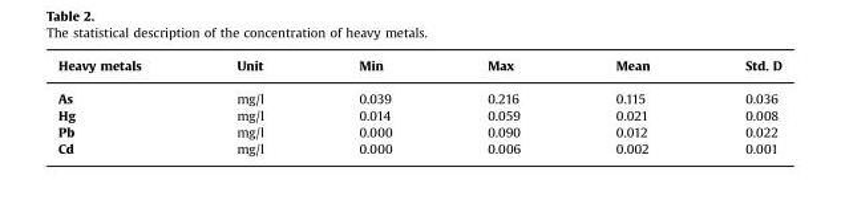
<table><thead><tr><td>Heavy metals</td><td>Unit</td><td>Min</td><td>Max</td><td>Mean</td><td>Std. D</td></tr></thead><tbody><tr><td>As</td><td>mg/l</td><td>0.039</td><td>0.216</td><td>0.115</td><td>0.036</td></tr><tr><td>Hg</td><td>mg/l</td><td>0.014</td><td>0.059</td><td>0.021</td><td>0.008</td></tr><tr><td>Pb</td><td>mg/l</td><td>0.000</td><td>0.090</td><td>0.012</td><td>0.022</td></tr><tr><td>Cd</td><td>mg/l</td><td>0.000</td><td>0.006</td><td>0.002</td><td>0.001</td></tr></tbody></table>